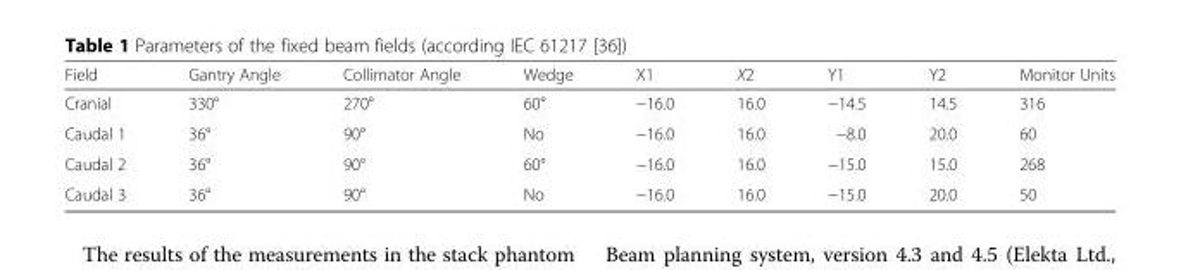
<table><thead><tr><td>Field</td><td>Gantry Angle</td><td>Collimator Angle</td><td>Wedge</td><td>X1</td><td>X2</td><td>Y1</td><td>Y2</td><td>Monitor Units</td></tr></thead><tbody><tr><td>Cranial</td><td>330°</td><td>270°</td><td>60°</td><td>−16.0</td><td>16.0</td><td>−14.5</td><td>14.5</td><td>316</td></tr><tr><td>Caudal 1</td><td>36°</td><td>90°</td><td>No</td><td>−16.0</td><td>16.0</td><td>−8.0</td><td>20.0</td><td>60</td></tr><tr><td>Caudal 2</td><td>36°</td><td>90°</td><td>60°</td><td>−16.0</td><td>16.0</td><td>−15.0</td><td>15.0</td><td>268</td></tr><tr><td>Caudal 3</td><td>36°</td><td>90°</td><td>No</td><td>−16.0</td><td>16.0</td><td>−15.0</td><td>20.0</td><td>50</td></tr></tbody></table>